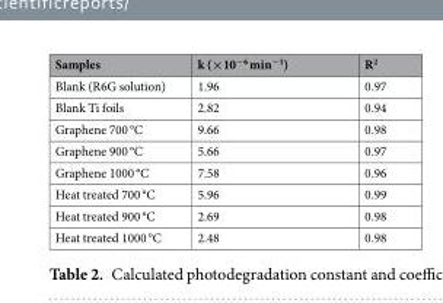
<table><thead><tr><td>Samples</td><td>k (×10<sup>−6</sup> min<sup>−1</sup>)</td><td>R<sup>2</sup></td></tr></thead><tbody><tr><td>Blank (R6G solution)</td><td>1.96</td><td>0.97</td></tr><tr><td>Blank Ti foils</td><td>2.82</td><td>0.94</td></tr><tr><td>Graphene 700 °C</td><td>9.66</td><td>0.98</td></tr><tr><td>Graphene 900 °C</td><td>5.66</td><td>0.97</td></tr><tr><td>Graphene 1000 °C</td><td>7.58</td><td>0.96</td></tr><tr><td>Heat treated 700 °C</td><td>5.96</td><td>0.99</td></tr><tr><td>Heat treated 900 °C</td><td>2.69</td><td>0.98</td></tr><tr><td>Heat treated 1000 °C</td><td>2.48</td><td>0.98</td></tr></tbody></table>